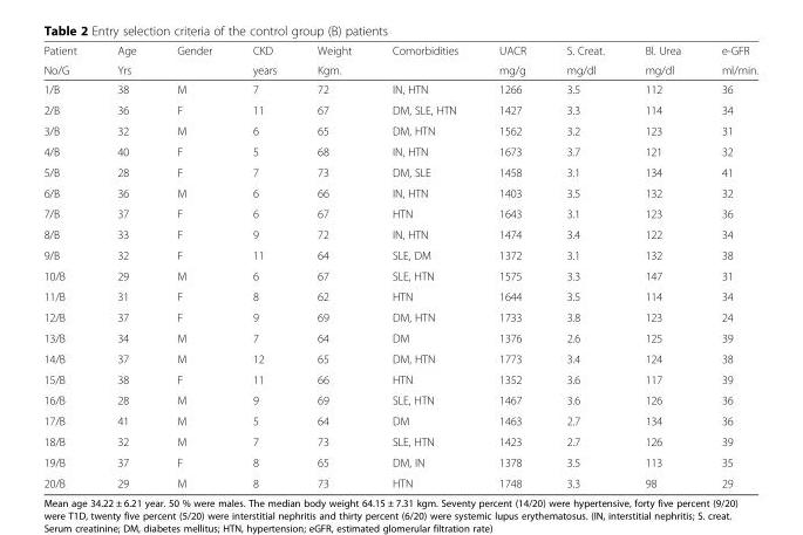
<table><thead><tr><td rowspan="2">Patient No/G</td><td rowspan="2">Age Yrs</td><td rowspan="2">Gender</td><td rowspan="2">CKD years</td><td rowspan="2">Weight Kgm.</td><td rowspan="2">Comorbidities</td><td rowspan="2">UACR mg/g</td><td rowspan="2">S. Creat. mg/dl</td><td rowspan="2">Bl. Urea mg/dl</td><td rowspan="2">e-GFR ml/min.</td></tr><tr></tr></thead><tbody><tr><td>1/B</td><td>38</td><td>M</td><td>7</td><td>72</td><td>IN, HTN</td><td>1266</td><td>3.5</td><td>112</td><td>36</td></tr><tr><td>2/B</td><td>36</td><td>F</td><td>11</td><td>67</td><td>DM, SLE, HTN</td><td>1427</td><td>3.3</td><td>114</td><td>34</td></tr><tr><td>3/B</td><td>32</td><td>M</td><td>6</td><td>65</td><td>DM, HTN</td><td>1562</td><td>3.2</td><td>123</td><td>31</td></tr><tr><td>4/B</td><td>40</td><td>F</td><td>5</td><td>68</td><td>IN, HTN</td><td>1673</td><td>3.7</td><td>121</td><td>32</td></tr><tr><td>5/B</td><td>28</td><td>F</td><td>7</td><td>73</td><td>DM, SLE</td><td>1458</td><td>3.1</td><td>134</td><td>41</td></tr><tr><td>6/B</td><td>36</td><td>M</td><td>6</td><td>66</td><td>IN, HTN</td><td>1403</td><td>3.5</td><td>132</td><td>32</td></tr><tr><td>7/B</td><td>37</td><td>F</td><td>6</td><td>67</td><td>HTN</td><td>1643</td><td>3.1</td><td>123</td><td>36</td></tr><tr><td>8/B</td><td>33</td><td>F</td><td>9</td><td>72</td><td>IN, HTN</td><td>1474</td><td>3.4</td><td>122</td><td>34</td></tr><tr><td>9/B</td><td>32</td><td>F</td><td>11</td><td>64</td><td>SLE, DM</td><td>1372</td><td>3.1</td><td>132</td><td>38</td></tr><tr><td>10/B</td><td>29</td><td>M</td><td>6</td><td>67</td><td>SLE, HTN</td><td>1575</td><td>3.3</td><td>147</td><td>31</td></tr><tr><td>11/B</td><td>31</td><td>F</td><td>8</td><td>62</td><td>HTN</td><td>1644</td><td>3.5</td><td>114</td><td>34</td></tr><tr><td>12/B</td><td>37</td><td>F</td><td>9</td><td>69</td><td>DM, HTN</td><td>1733</td><td>3.8</td><td>123</td><td>24</td></tr><tr><td>13/B</td><td>34</td><td>M</td><td>7</td><td>64</td><td>DM</td><td>1376</td><td>2.6</td><td>125</td><td>39</td></tr><tr><td>14/B</td><td>37</td><td>M</td><td>12</td><td>65</td><td>DM, HTN</td><td>1773</td><td>3.4</td><td>124</td><td>38</td></tr><tr><td>15/B</td><td>38</td><td>F</td><td>11</td><td>66</td><td>HTN</td><td>1352</td><td>3.6</td><td>117</td><td>39</td></tr><tr><td>16/B</td><td>28</td><td>M</td><td>9</td><td>69</td><td>SLE, HTN</td><td>1467</td><td>3.6</td><td>126</td><td>36</td></tr><tr><td>17/B</td><td>41</td><td>M</td><td>5</td><td>64</td><td>DM</td><td>1463</td><td>2.7</td><td>134</td><td>36</td></tr><tr><td>18/B</td><td>32</td><td>M</td><td>7</td><td>73</td><td>SLE, HTN</td><td>1423</td><td>2.7</td><td>126</td><td>39</td></tr><tr><td>19/B</td><td>37</td><td>F</td><td>8</td><td>65</td><td>DM, IN</td><td>1378</td><td>3.5</td><td>113</td><td>35</td></tr><tr><td>20/B</td><td>29</td><td>M</td><td>8</td><td>73</td><td>HTN</td><td>1748</td><td>3.3</td><td>98</td><td>29</td></tr></tbody></table>